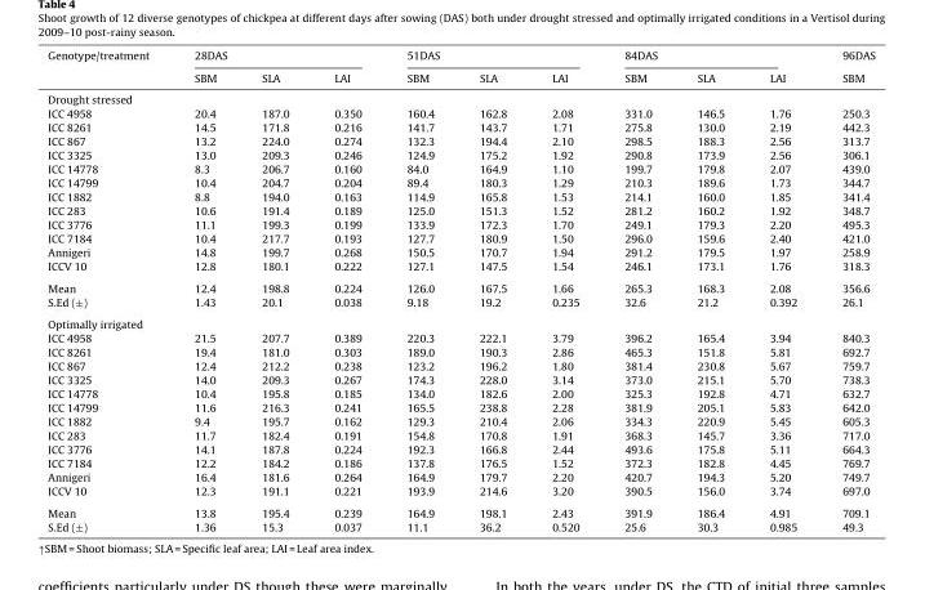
<table><thead><tr><td rowspan="2">Genotype/treatment</td><td colspan="3">28DAS</td><td colspan="3">51DAS</td><td colspan="3">84DAS</td><td rowspan="2">96DAS SBM</td></tr><tr><td>SBM</td><td>SLA</td><td>LAI</td><td>SBM</td><td>SLA</td><td>LAI</td><td>SBM</td><td>SLA</td><td>LAI</td></tr></thead><tbody><tr><td colspan="11">Drought stressed</td></tr><tr><td>ICC 4958</td><td>20.4</td><td>187.0</td><td>0.350</td><td>160.4</td><td>162.8</td><td>2.08</td><td>331.0</td><td>146.5</td><td>1.76</td><td>250.3</td></tr><tr><td>ICC 8261</td><td>14.5</td><td>171.8</td><td>0.216</td><td>141.7</td><td>143.7</td><td>1.71</td><td>275.8</td><td>130.0</td><td>2.19</td><td>442.3</td></tr><tr><td>ICC 867</td><td>13.2</td><td>224.0</td><td>0.274</td><td>132.3</td><td>194.4</td><td>2.10</td><td>298.5</td><td>188.3</td><td>2.56</td><td>313.7</td></tr><tr><td>ICC 3325</td><td>13.0</td><td>209.3</td><td>0.246</td><td>124.9</td><td>175.2</td><td>1.92</td><td>290.8</td><td>173.9</td><td>2.56</td><td>306.1</td></tr><tr><td>ICC 14778</td><td>8.3</td><td>206.7</td><td>0.160</td><td>84.0</td><td>164.9</td><td>1.10</td><td>199.7</td><td>179.8</td><td>2.07</td><td>439.0</td></tr><tr><td>ICC 14799</td><td>10.4</td><td>204.7</td><td>0.204</td><td>89.4</td><td>180.3</td><td>1.29</td><td>210.3</td><td>189.6</td><td>1.73</td><td>344.7</td></tr><tr><td>ICC 1882</td><td>8.8</td><td>194.0</td><td>0.163</td><td>114.9</td><td>165.8</td><td>1.53</td><td>214.1</td><td>160.0</td><td>1.85</td><td>341.4</td></tr><tr><td>ICC 283</td><td>10.6</td><td>191.4</td><td>0.189</td><td>125.0</td><td>151.3</td><td>1.52</td><td>281.2</td><td>160.2</td><td>1.92</td><td>348.7</td></tr><tr><td>ICC 3776</td><td>11.1</td><td>199.3</td><td>0.199</td><td>133.9</td><td>172.3</td><td>1.70</td><td>249.1</td><td>179.3</td><td>2.20</td><td>495.3</td></tr><tr><td>ICC 7184</td><td>10.4</td><td>217.7</td><td>0.193</td><td>127.7</td><td>180.9</td><td>1.50</td><td>296.0</td><td>159.6</td><td>2.40</td><td>421.0</td></tr><tr><td>Annigeri</td><td>14.8</td><td>199.7</td><td>0.268</td><td>150.5</td><td>170.7</td><td>1.94</td><td>291.2</td><td>179.5</td><td>1.97</td><td>258.9</td></tr><tr><td>ICCV 10</td><td>12.8</td><td>180.1</td><td>0.222</td><td>127.1</td><td>147.5</td><td>1.54</td><td>246.1</td><td>173.1</td><td>1.76</td><td>318.3</td></tr><tr><td>Mean</td><td>12.4</td><td>198.8</td><td>0.224</td><td>126.0</td><td>167.5</td><td>1.66</td><td>265.3</td><td>168.3</td><td>2.08</td><td>356.6</td></tr><tr><td>S.Ed (±)</td><td>1.43</td><td>20.1</td><td>0.038</td><td>9.18</td><td>19.2</td><td>0.235</td><td>32.6</td><td>21.2</td><td>0.392</td><td>26.1</td></tr><tr><td colspan="11">Optimally irrigated</td></tr><tr><td>ICC 4958</td><td>21.5</td><td>207.7</td><td>0.389</td><td>220.3</td><td>222.1</td><td>3.79</td><td>396.2</td><td>165.4</td><td>3.94</td><td>840.3</td></tr><tr><td>ICC 8261</td><td>19.4</td><td>181.0</td><td>0.303</td><td>189.0</td><td>190.3</td><td>2.86</td><td>465.3</td><td>151.8</td><td>5.81</td><td>692.7</td></tr><tr><td>ICC 867</td><td>12.4</td><td>212.2</td><td>0.238</td><td>123.2</td><td>196.2</td><td>1.80</td><td>381.4</td><td>230.8</td><td>5.67</td><td>759.7</td></tr><tr><td>ICC 3325</td><td>14.0</td><td>209.3</td><td>0.267</td><td>174.3</td><td>228.0</td><td>3.14</td><td>373.0</td><td>215.1</td><td>5.70</td><td>738.3</td></tr><tr><td>ICC 14778</td><td>10.4</td><td>195.8</td><td>0.185</td><td>134.0</td><td>182.6</td><td>2.00</td><td>325.3</td><td>192.8</td><td>4.71</td><td>632.7</td></tr><tr><td>ICC 14799</td><td>11.6</td><td>216.3</td><td>0.241</td><td>165.5</td><td>238.8</td><td>2.28</td><td>381.9</td><td>205.1</td><td>5.83</td><td>642.0</td></tr><tr><td>ICC 1882</td><td>9.4</td><td>195.7</td><td>0.162</td><td>129.3</td><td>210.4</td><td>2.06</td><td>334.3</td><td>220.9</td><td>5.45</td><td>605.3</td></tr><tr><td>ICC 283</td><td>11.7</td><td>182.4</td><td>0.191</td><td>154.8</td><td>170.8</td><td>1.91</td><td>368.3</td><td>145.7</td><td>3.36</td><td>717.0</td></tr><tr><td>ICC 3776</td><td>14.1</td><td>187.8</td><td>0.224</td><td>192.3</td><td>166.8</td><td>2.44</td><td>493.6</td><td>175.8</td><td>5.11</td><td>664.3</td></tr><tr><td>ICC 7184</td><td>12.2</td><td>184.2</td><td>0.186</td><td>137.8</td><td>176.5</td><td>1.52</td><td>372.3</td><td>182.8</td><td>4.45</td><td>769.7</td></tr><tr><td>Annigeri</td><td>16.4</td><td>181.6</td><td>0.264</td><td>164.9</td><td>179.7</td><td>2.20</td><td>420.7</td><td>194.3</td><td>5.20</td><td>749.7</td></tr><tr><td>ICCV 10</td><td>12.3</td><td>191.1</td><td>0.221</td><td>193.9</td><td>214.6</td><td>3.20</td><td>390.5</td><td>156.0</td><td>3.74</td><td>697.0</td></tr><tr><td>Mean</td><td>13.8</td><td>195.4</td><td>0.239</td><td>164.9</td><td>198.1</td><td>2.43</td><td>391.9</td><td>186.4</td><td>4.91</td><td>709.1</td></tr><tr><td>S.Ed (±)</td><td>1.36</td><td>15.3</td><td>0.037</td><td>11.1</td><td>36.2</td><td>0.520</td><td>25.6</td><td>30.3</td><td>0.985</td><td>49.3</td></tr></tbody></table>